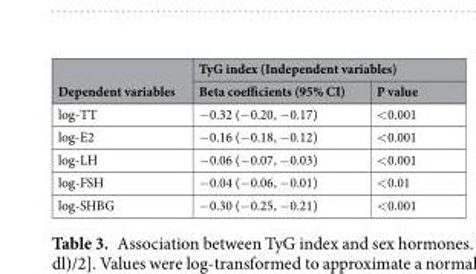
<table><thead><tr><td rowspan="2">Dependent variables</td><td colspan="2">TyG index (Independent variables)</td></tr><tr><td>Beta coefficients (95% CI)</td><td>P value</td></tr></thead><tbody><tr><td>log-TT</td><td>−0.32 (−0.20, −0.17)</td><td>&lt;0.001</td></tr><tr><td>log-E2</td><td>−0.16 (−0.18, −0.12)</td><td>&lt;0.001</td></tr><tr><td>log-LH</td><td>−0.06 (−0.07, −0.03)</td><td>&lt;0.001</td></tr><tr><td>log-FSH</td><td>−0.04 (−0.06, −0.01)</td><td>&lt;0.01</td></tr><tr><td>log-SHBG</td><td>−0.30 (−0.25, −0.21)</td><td>&lt;0.001</td></tr></tbody></table>